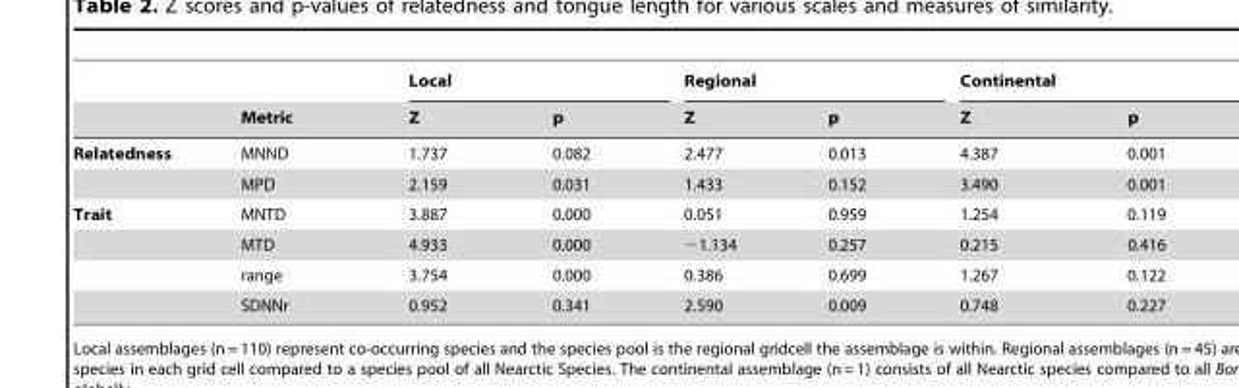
<table><thead><tr><td rowspan="2"></td><td rowspan="2">Metric</td><td colspan="2">Local</td><td colspan="2">Regional</td><td colspan="2">Continental</td></tr><tr><td>Z</td><td>p</td><td>Z</td><td>p</td><td>Z</td><td>p</td></tr></thead><tbody><tr><td rowspan="2">Relatedness</td><td>MNND</td><td>1.737</td><td>0.082</td><td>2.477</td><td>0.013</td><td>4.387</td><td>0.001</td></tr><tr><td>MPD</td><td>2.159</td><td>0.031</td><td>1.433</td><td>0.152</td><td>3.490</td><td>0.001</td></tr><tr><td rowspan="4">Trait</td><td>MNTD</td><td>3.887</td><td>0.000</td><td>0.051</td><td>0.959</td><td>1.254</td><td>0.119</td></tr><tr><td>MTD</td><td>4.933</td><td>0.000</td><td>−1.134</td><td>0.257</td><td>0.215</td><td>0.416</td></tr><tr><td>range</td><td>3.754</td><td>0.000</td><td>0.386</td><td>0.699</td><td>1.267</td><td>0.122</td></tr><tr><td>SDNNr</td><td>0.952</td><td>0.341</td><td>2.590</td><td>0.009</td><td>0.748</td><td>0.227</td></tr></tbody></table>